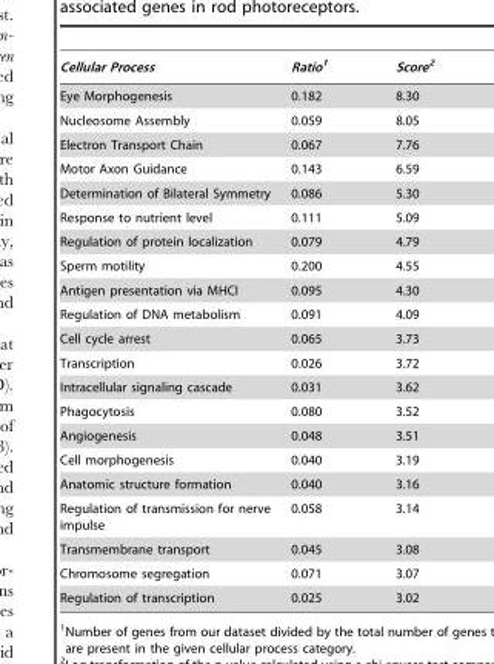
<table><thead><tr><td>Cellular Process</td><td>Ratio1</td><td>Score2</td></tr></thead><tbody><tr><td>Eye Morphogenesis</td><td>0.182</td><td>8.30</td></tr><tr><td>Nucleosome Assembly</td><td>0.059</td><td>8.05</td></tr><tr><td>Electron Transport Chain</td><td>0.067</td><td>7.76</td></tr><tr><td>Motor Axon Guidance</td><td>0.143</td><td>6.59</td></tr><tr><td>Determination of Bilateral Symmetry</td><td>0.086</td><td>5.30</td></tr><tr><td>Response to nutrient level</td><td>0.111</td><td>5.09</td></tr><tr><td>Regulation of protein localization</td><td>0.079</td><td>4.79</td></tr><tr><td>Sperm motility</td><td>0.200</td><td>4.55</td></tr><tr><td>Antigen presentation via MHCI</td><td>0.095</td><td>4.30</td></tr><tr><td>Regulation of DNA metabolism</td><td>0.091</td><td>4.09</td></tr><tr><td>Cell cycle arrest</td><td>0.065</td><td>3.73</td></tr><tr><td>Transcription</td><td>0.026</td><td>3.72</td></tr><tr><td>Intracellular signaling cascade</td><td>0.031</td><td>3.62</td></tr><tr><td>Phagocytosis</td><td>0.080</td><td>3.52</td></tr><tr><td>Angiogenesis</td><td>0.048</td><td>3.51</td></tr><tr><td>Cell morphogenesis</td><td>0.040</td><td>3.19</td></tr><tr><td>Anatomic structure formation</td><td>0.040</td><td>3.16</td></tr><tr><td>Regulation of transmission for nerve impulse</td><td>0.058</td><td>3.14</td></tr><tr><td>Transmembrane transport</td><td>0.045</td><td>3.08</td></tr><tr><td>Chromosome segregation</td><td>0.071</td><td>3.07</td></tr><tr><td>Regulation of transcription</td><td>0.025</td><td>3.02</td></tr></tbody></table>